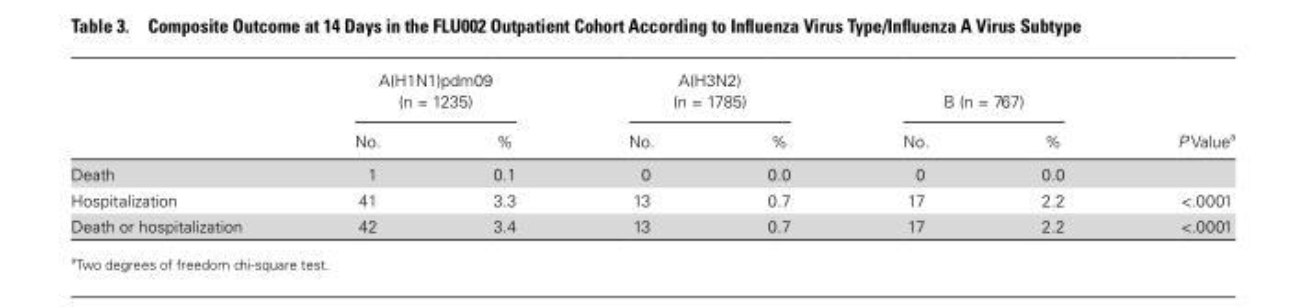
<table><thead><tr><td rowspan="2"></td><td colspan="2">A(H1N1)pdm09 (n = 1235)</td><td colspan="2">A(H3N2) (n = 1785)</td><td colspan="2">B (n = 767)</td><td rowspan="2">P Value<sup>a</sup></td></tr><tr><td>No.</td><td>%</td><td>No.</td><td>%</td><td>No.</td><td>%</td></tr></thead><tbody><tr><td>Death</td><td>1</td><td>0.1</td><td>0</td><td>0.0</td><td>0</td><td>0.0</td><td></td></tr><tr><td>Hospitalization</td><td>41</td><td>3.3</td><td>13</td><td>0.7</td><td>17</td><td>2.2</td><td>&lt;.0001</td></tr><tr><td>Death or hospitalization</td><td>42</td><td>3.4</td><td>13</td><td>0.7</td><td>17</td><td>2.2</td><td>&lt;.0001</td></tr></tbody></table>